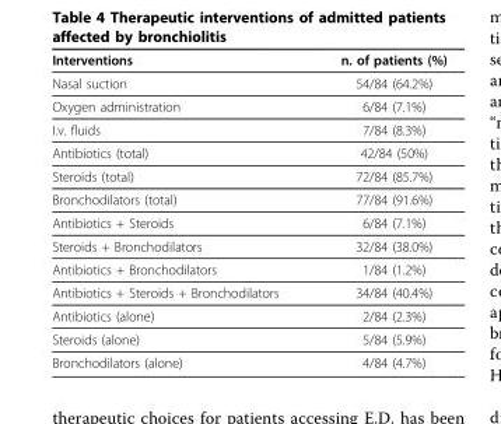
<table><thead><tr><td>Interventions</td><td>n. of patients (%)</td></tr></thead><tbody><tr><td>Nasal suction</td><td>54/84 (64.2%)</td></tr><tr><td>Oxygen administration</td><td>6/84 (7.1%)</td></tr><tr><td>I.v. fluids</td><td>7/84 (8.3%)</td></tr><tr><td>Antibiotics (total)</td><td>42/84 (50%)</td></tr><tr><td>Steroids (total)</td><td>72/84 (85.7%)</td></tr><tr><td>Bronchodilators (total)</td><td>77/84 (91.6%)</td></tr><tr><td>Antibiotics + Steroids</td><td>6/84 (7.1%)</td></tr><tr><td>Steroids + Bronchodilators</td><td>32/84 (38.0%)</td></tr><tr><td>Antibiotics + Bronchodilators</td><td>1/84 (1.2%)</td></tr><tr><td>Antibiotics + Steroids + Bronchodilators</td><td>34/84 (40.4%)</td></tr><tr><td>Antibiotics (alone)</td><td>2/84 (2.3%)</td></tr><tr><td>Steroids (alone)</td><td>5/84 (5.9%)</td></tr><tr><td>Bronchodilators (alone)</td><td>4/84 (4.7%)</td></tr></tbody></table>